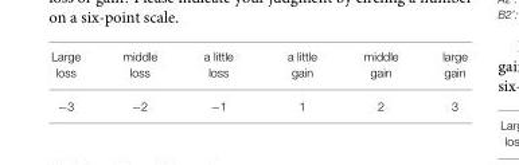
<table><thead><tr><td>Large loss</td><td>middle loss</td><td>a little loss</td><td>a little gain</td><td>middle gain</td><td>large gain</td></tr></thead><tbody><tr><td>−3</td><td>−2</td><td>−1</td><td>1</td><td>2</td><td>3</td></tr></tbody></table>